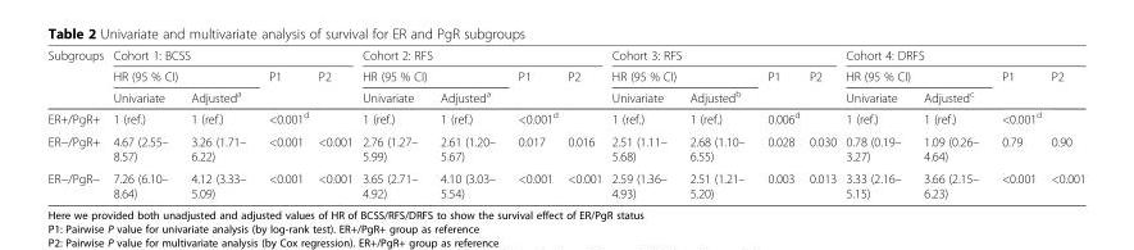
<table><thead><tr><td rowspan="3">Subgroups</td><td colspan="4">Cohort 1: BCSS</td><td colspan="4">Cohort 2: RFS</td><td colspan="4">Cohort 3: RFS</td><td colspan="4">Cohort 4: DRFS</td></tr><tr><td colspan="2">HR (95 % CI)</td><td rowspan="2">P1</td><td rowspan="2">P2</td><td colspan="2">HR (95 % CI)</td><td rowspan="2">P1</td><td rowspan="2">P2</td><td colspan="2">HR (95 % CI)</td><td rowspan="2">P1</td><td rowspan="2">P2</td><td colspan="2">HR (95 % CI)</td><td rowspan="2">P1</td><td rowspan="2">P2</td></tr><tr><td>Univariate</td><td>Adjusted<sup>a</sup></td><td>Univariate</td><td>Adjusted<sup>a</sup></td><td>Univariate</td><td>Adjusted<sup>b</sup></td><td>Univariate</td><td>Adjusted<sup>c</sup></td></tr></thead><tbody><tr><td>ER+/PgR+</td><td>1 (ref.)</td><td>1 (ref.)</td><td>&lt;0.001<sup>d</sup></td><td></td><td>1 (ref.)</td><td>1 (ref.)</td><td>&lt;0.001<sup>d</sup></td><td></td><td>1 (ref.)</td><td>1 (ref.)</td><td>0.006<sup>d</sup></td><td></td><td>1 (ref.)</td><td>1 (ref.)</td><td>&lt;0.001<sup>d</sup></td><td></td></tr><tr><td>ER−/PgR+</td><td>4.67 (2.55– 8.57)</td><td>3.26 (1.71– 6.22)</td><td>&lt;0.001</td><td>&lt;0.001</td><td>2.76 (1.27– 5.99)</td><td>2.61 (1.20– 5.67)</td><td>0.017</td><td>0.016</td><td>2.51 (1.11– 5.68)</td><td>2.68 (1.10– 6.55)</td><td>0.028</td><td>0.030</td><td>0.78 (0.19– 3.27)</td><td>1.09 (0.26– 4.64)</td><td>0.79</td><td>0.90</td></tr><tr><td>ER−/PgR−</td><td>7.26 (6.10– 8.64)</td><td>4.12 (3.33– 5.09)</td><td>&lt;0.001</td><td>&lt;0.001</td><td>3.65 (2.71– 4.92)</td><td>4.10 (3.03– 5.54)</td><td>&lt;0.001</td><td>&lt;0.001</td><td>2.59 (1.36– 4.93)</td><td>2.51 (1.21– 5.20)</td><td>0.003</td><td>0.013</td><td>3.33 (2.16– 5.15)</td><td>3.66 (2.15– 6.23)</td><td>&lt;0.001</td><td>&lt;0.001</td></tr></tbody></table>